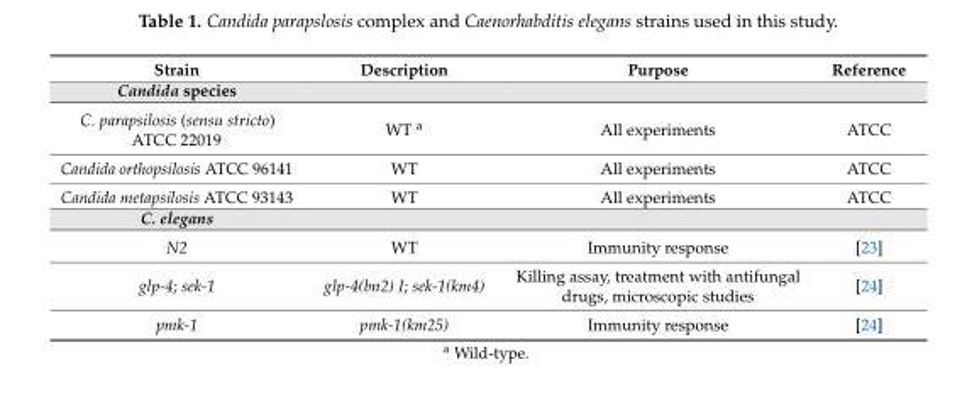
<table><thead><tr><td>Strain</td><td>Description</td><td>Purpose</td><td>Reference</td></tr></thead><tbody><tr><td colspan="4">Candida species</td></tr><tr><td>C. parapsilosis (sensu stricto) ATCC 22019</td><td>WT <sup>a</sup></td><td>All experiments</td><td>ATCC</td></tr><tr><td>Candida orthopsilosis ATCC 96141</td><td>WT</td><td>All experiments</td><td>ATCC</td></tr><tr><td>Candida metapsilosis ATCC 93143</td><td>WT</td><td>All experiments</td><td>ATCC</td></tr><tr><td colspan="4">C. elegans</td></tr><tr><td>N2</td><td>WT</td><td>Immunity response</td><td>[23]</td></tr><tr><td>glp-4; sek-1</td><td>glp-4(bn2) I; sek-1(km4)</td><td>Killing assay, treatment with antifungal drugs, microscopic studies</td><td>[24]</td></tr><tr><td>pmk-1</td><td>pmk-1(km25)</td><td>Immunity response</td><td>[24]</td></tr></tbody></table>